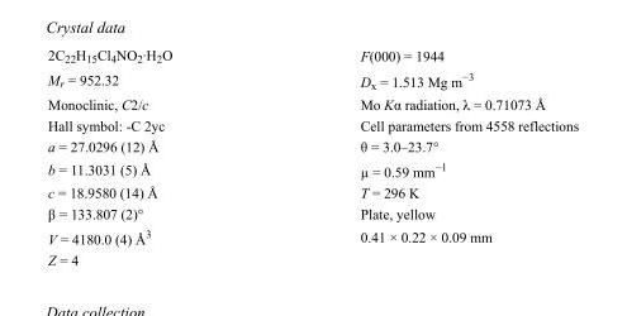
<table><tbody><tr><td>2C<sub>22</sub>H<sub>15</sub>Cl<sub>4</sub>NO<sub>2</sub>·H<sub>2</sub>O</td><td>F(000) = 1944</td></tr><tr><td>M<sub>r</sub> = 952.32</td><td>D<sub>x</sub> = 1.513 Mg m<sup>−3</sup></td></tr><tr><td>Monoclinic, C2/c</td><td>Mo Kα radiation, λ = 0.71073 Å</td></tr><tr><td>Hall symbol: -C 2yc</td><td>Cell parameters from 4558 reflections</td></tr><tr><td>a = 27.0296 (12) Å</td><td>θ = 3.0–23.7°</td></tr><tr><td>b = 11.3031 (5) Å</td><td>µ = 0.59 mm<sup>−1</sup></td></tr><tr><td>c = 18.9580 (14) Å</td><td>T = 296 K</td></tr><tr><td>β = 133.807 (2)°</td><td>Plate, yellow</td></tr><tr><td>V = 4180.0 (4) Å<sup>3</sup></td><td>0.41 × 0.22 × 0.09 mm</td></tr><tr><td>Z = 4</td><td></td></tr></tbody></table>